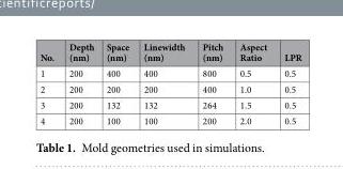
<table><thead><tr><td>No.</td><td>Depth (nm)</td><td>Space (nm)</td><td>Linewidth (nm)</td><td>Pitch (nm)</td><td>Aspect Ratio</td><td>LPR</td></tr></thead><tbody><tr><td>1</td><td>200</td><td>400</td><td>400</td><td>800</td><td>0.5</td><td>0.5</td></tr><tr><td>2</td><td>200</td><td>200</td><td>200</td><td>400</td><td>1.0</td><td>0.5</td></tr><tr><td>3</td><td>200</td><td>132</td><td>132</td><td>264</td><td>1.5</td><td>0.5</td></tr><tr><td>4</td><td>200</td><td>100</td><td>100</td><td>200</td><td>2.0</td><td>0.5</td></tr></tbody></table>